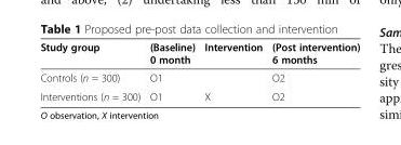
<table><thead><tr><td>Study group</td><td>(Baseline) 0 month</td><td>Intervention</td><td>(Post intervention) 6 months</td></tr></thead><tbody><tr><td>Controls (n = 300)</td><td>O1</td><td></td><td>O2</td></tr><tr><td>Interventions (n = 300)</td><td>O1</td><td>X</td><td>O2</td></tr></tbody></table>